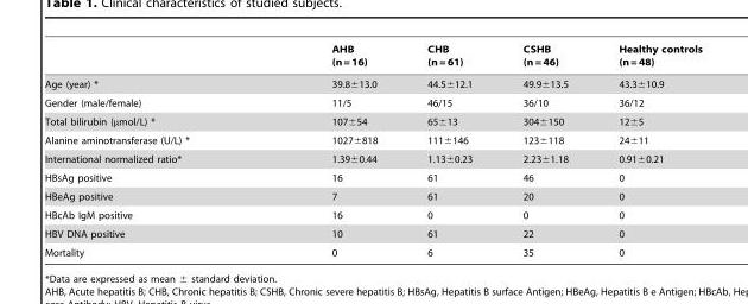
<table><thead><tr><td></td><td>AHB (n = 16)</td><td>CHB (n = 61)</td><td>CSHB (n = 46)</td><td>Healthy controls (n = 48)</td></tr></thead><tbody><tr><td>Age (year) *</td><td>39.8±13.0</td><td>44.5±12.1</td><td>49.9±13.5</td><td>43.3±10.9</td></tr><tr><td>Gender (male/female)</td><td>11/5</td><td>46/15</td><td>36/10</td><td>36/12</td></tr><tr><td>Total bilirubin (µmol/L) *</td><td>107±54</td><td>65±13</td><td>304±150</td><td>12±5</td></tr><tr><td>Alanine aminotransferase (U/L) *</td><td>1027±818</td><td>111±146</td><td>123±118</td><td>24±11</td></tr><tr><td>International normalized ratio*</td><td>1.39±0.44</td><td>1.13±0.23</td><td>2.23±1.18</td><td>0.91±0.21</td></tr><tr><td>HBsAg positive</td><td>16</td><td>61</td><td>46</td><td>0</td></tr><tr><td>HBeAg positive</td><td>7</td><td>61</td><td>20</td><td>0</td></tr><tr><td>HBcAb IgM positive</td><td>16</td><td>0</td><td>0</td><td>0</td></tr><tr><td>HBV DNA positive</td><td>10</td><td>61</td><td>22</td><td>0</td></tr><tr><td>Mortality</td><td>0</td><td>6</td><td>35</td><td>0</td></tr></tbody></table>